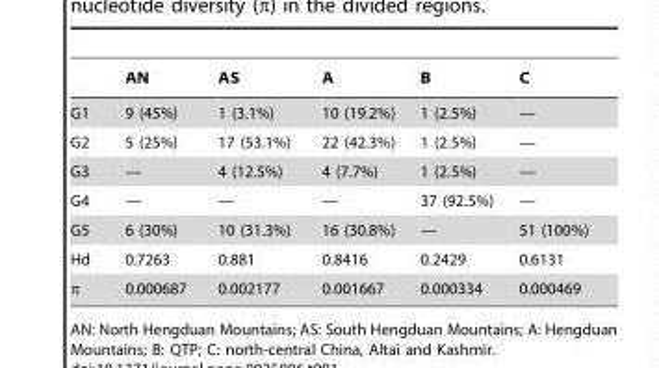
<table><thead><tr><td></td><td>AN</td><td>AS</td><td>A</td><td>B</td><td>C</td></tr></thead><tbody><tr><td>G1</td><td>9 (45%)</td><td>1 (3.1%)</td><td>10 (19.2%)</td><td>1 (2.5%)</td><td>—</td></tr><tr><td>G2</td><td>5 (25%)</td><td>17 (53.1%)</td><td>22 (42.3%)</td><td>1 (2.5%)</td><td>—</td></tr><tr><td>G3</td><td>—</td><td>4 (12.5%)</td><td>4 (7.7%)</td><td>1 (2.5%)</td><td>—</td></tr><tr><td>G4</td><td>—</td><td>—</td><td>—</td><td>37 (92.5%)</td><td>—</td></tr><tr><td>G5</td><td>6 (30%)</td><td>10 (31.3%)</td><td>16 (30.8%)</td><td>—</td><td>51 (100%)</td></tr><tr><td>Hd</td><td>0.7263</td><td>0.881</td><td>0.8416</td><td>0.2429</td><td>0.6131</td></tr><tr><td>π</td><td>0.000687</td><td>0.002177</td><td>0.001667</td><td>0.000334</td><td>0.000469</td></tr></tbody></table>